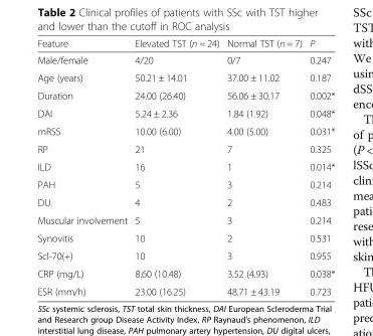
<table><thead><tr><td>Feature</td><td>Elevated TST (n = 24)</td><td>Normal TST (n = 7)</td><td>P</td></tr></thead><tbody><tr><td>Male/female</td><td>4/20</td><td>0/7</td><td>0.247</td></tr><tr><td>Age (years)</td><td>50.21 ± 14.01</td><td>37.00 ± 11.02</td><td>0.187</td></tr><tr><td>Duration</td><td>24.00 (26.40)</td><td>56.06 ± 30.17</td><td>0.002*</td></tr><tr><td>DAI</td><td>5.24 ± 2.36</td><td>1.84 (1.92)</td><td>0.048*</td></tr><tr><td>mRSS</td><td>10.00 (6.00)</td><td>4.00 (5.00)</td><td>0.031*</td></tr><tr><td>RP</td><td>21</td><td>7</td><td>0.325</td></tr><tr><td>ILD</td><td>16</td><td>1</td><td>0.014*</td></tr><tr><td>PAH</td><td>5</td><td>3</td><td>0.214</td></tr><tr><td>DU</td><td>4</td><td>2</td><td>0.483</td></tr><tr><td>Muscular involvement</td><td>5</td><td>3</td><td>0.214</td></tr><tr><td>Synovitis</td><td>10</td><td>2</td><td>0.531</td></tr><tr><td>Scl-70(+)</td><td>10</td><td>3</td><td>0.955</td></tr><tr><td>CRP (mg/L)</td><td>8.60 (10.48)</td><td>3.52 (4.93)</td><td>0.038*</td></tr><tr><td>ESR (mm/h)</td><td>23.00 (16.25)</td><td>48.71 ± 43.19</td><td>0.723</td></tr></tbody></table>